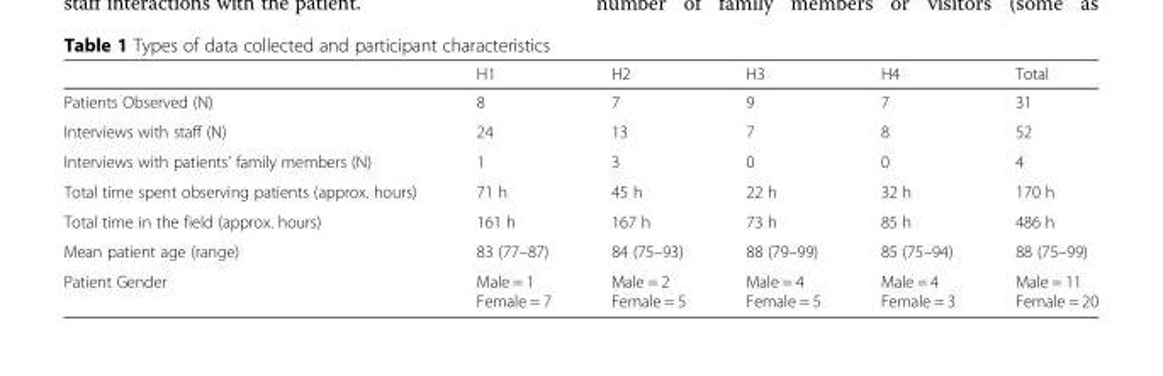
<table><thead><tr><td></td><td>H1</td><td>H2</td><td>H3</td><td>H4</td><td>Total</td></tr></thead><tbody><tr><td>Patients Observed (N)</td><td>8</td><td>7</td><td>9</td><td>7</td><td>31</td></tr><tr><td>Interviews with staff (N)</td><td>24</td><td>13</td><td>7</td><td>8</td><td>52</td></tr><tr><td>Interviews with patients’ family members (N)</td><td>1</td><td>3</td><td>0</td><td>0</td><td>4</td></tr><tr><td>Total time spent observing patients (approx. hours)</td><td>71 h</td><td>45 h</td><td>22 h</td><td>32 h</td><td>170 h</td></tr><tr><td>Total time in the field (approx. hours)</td><td>161 h</td><td>167 h</td><td>73 h</td><td>85 h</td><td>486 h</td></tr><tr><td>Mean patient age (range)</td><td>83 (77–87)</td><td>84 (75–93)</td><td>88 (79–99)</td><td>85 (75–94)</td><td>88 (75–99)</td></tr><tr><td>Patient Gender</td><td>Male = 1 Female = 7</td><td>Male = 2 Female = 5</td><td>Male = 4 Female = 5</td><td>Male = 4 Female = 3</td><td>Male = 11 Female = 20</td></tr></tbody></table>